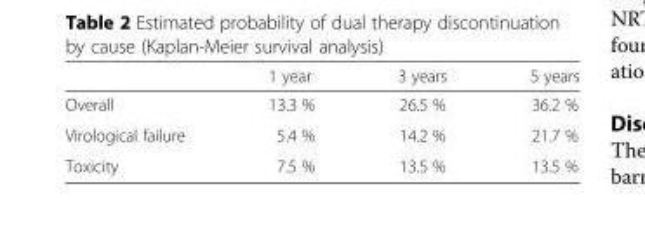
<table><thead><tr><td></td><td>1 year</td><td>3 years</td><td>5 years</td></tr></thead><tbody><tr><td>Overall</td><td>13.3 %</td><td>26.5 %</td><td>36.2 %</td></tr><tr><td>Virological failure</td><td>5.4 %</td><td>14.2 %</td><td>21.7 %</td></tr><tr><td>Toxicity</td><td>7.5 %</td><td>13.5 %</td><td>13.5 %</td></tr></tbody></table>